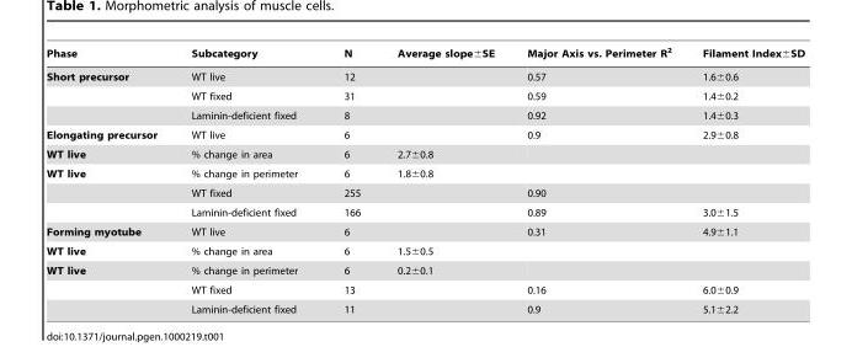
<table><thead><tr><td>Phase</td><td>Subcategory</td><td>N</td><td>Average slope±SE</td><td>Major Axis vs. Perimeter R<sup>2</sup></td><td>Filament Index±SD</td></tr></thead><tbody><tr><td rowspan="3">Short precursor</td><td>WT live</td><td>12</td><td></td><td>0.57</td><td>1.6±0.6</td></tr><tr><td>WT fixed</td><td>31</td><td></td><td>0.59</td><td>1.4±0.2</td></tr><tr><td>Laminin-deficient fixed</td><td>8</td><td></td><td>0.92</td><td>1.4±0.3</td></tr><tr><td>Elongating precursor</td><td>WT live</td><td>6</td><td></td><td>0.9</td><td>2.9±0.8</td></tr><tr><td>WT live</td><td>% change in area</td><td>6</td><td>2.7±0.8</td><td></td><td></td></tr><tr><td rowspan="3">WT live</td><td>% change in perimeter</td><td>6</td><td>1.8±0.8</td><td></td><td></td></tr><tr><td>WT fixed</td><td>255</td><td></td><td>0.90</td><td></td></tr><tr><td>Laminin-deficient fixed</td><td>166</td><td></td><td>0.89</td><td>3.0±1.5</td></tr><tr><td>Forming myotube</td><td>WT live</td><td>6</td><td></td><td>0.31</td><td>4.9±1.1</td></tr><tr><td>WT live</td><td>% change in area</td><td>6</td><td>1.5±0.5</td><td></td><td></td></tr><tr><td rowspan="3">WT live</td><td>% change in perimeter</td><td>6</td><td>0.2±0.1</td><td></td><td></td></tr><tr><td>WT fixed</td><td>13</td><td></td><td>0.16</td><td>6.0±0.9</td></tr><tr><td>Laminin-deficient fixed</td><td>11</td><td></td><td>0.9</td><td>5.1±2.2</td></tr></tbody></table>